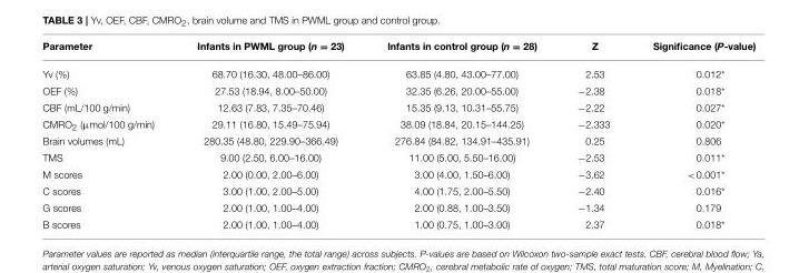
<table><thead><tr><td>Parameter</td><td>Infants in PWML group (n = 23)</td><td>Infants in control group (n = 28)</td><td>Z</td><td>Significance (P-value)</td></tr></thead><tbody><tr><td>Yv (%)</td><td>68.70 (16.30, 48.00–86.00)</td><td>63.85 (4.80, 43.00–77.00)</td><td>2.53</td><td>0.012*</td></tr><tr><td>OEF (%)</td><td>27.53 (18.94, 8.00–50.00)</td><td>32.35 (6.26, 20.00–55.00)</td><td>−2.38</td><td>0.018*</td></tr><tr><td>CBF (mL/100 g/min)</td><td>12.63 (7.83, 7.35–70.46)</td><td>15.35 (9.13, 10.31–55.75)</td><td>−2.22</td><td>0.027*</td></tr><tr><td>CMRO<sub>2</sub> (µmol/100 g/min)</td><td>29.11 (16.80, 15.49–75.94)</td><td>38.09 (18.84, 20.15–144.25)</td><td>−2.333</td><td>0.020*</td></tr><tr><td>Brain volumes (mL)</td><td>280.35 (48.80, 229.90–366.49)</td><td>276.84 (84.82, 134.91–435.91)</td><td>0.25</td><td>0.806</td></tr><tr><td>TMS</td><td>9.00 (2.50, 6.00–16.00)</td><td>11.00 (5.00, 5.50–16.00)</td><td>−2.53</td><td>0.011*</td></tr><tr><td>M scores</td><td>2.00 (0.00, 2.00–6.00)</td><td>3.00 (4.00, 1.50–6.00)</td><td>−3.62</td><td>&lt;0.001*</td></tr><tr><td>C scores</td><td>3.00 (1.00, 2.00–5.00)</td><td>4.00 (1.75, 2.00–5.50)</td><td>−2.40</td><td>0.016*</td></tr><tr><td>G scores</td><td>2.00 (1.00, 1.00–4.00)</td><td>2.00 (0.88, 1.00–3.50)</td><td>−1.34</td><td>0.179</td></tr><tr><td>B scores</td><td>2.00 (1.00, 1.00–4.00)</td><td>1.00 (0.75, 1.00–3.00)</td><td>2.37</td><td>0.018*</td></tr></tbody></table>